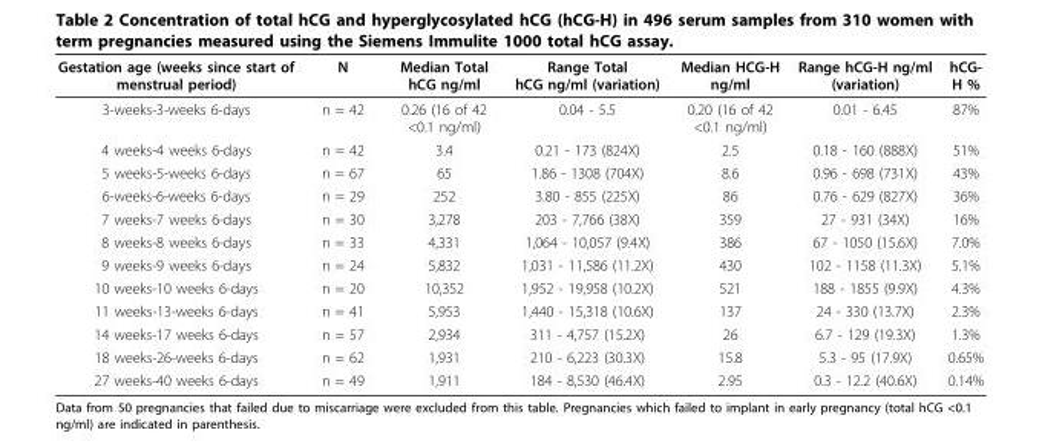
<table><thead><tr><td>Gestation age (weeks since start of menstrual period)</td><td>N</td><td>Median Total hCG ng/ml</td><td>Range Total hCG ng/ml (variation)</td><td>Median HCG-H ng/ml</td><td>Range hCG-H ng/ml (variation)</td><td>hCG- H %</td></tr></thead><tbody><tr><td>3-weeks-3-weeks 6-days</td><td>n = 42</td><td>0.26 (16 of 42 &lt;0.1 ng/ml)</td><td>0.04 - 5.5</td><td>0.20 (16 of 42 &lt;0.1 ng/ml)</td><td>0.01 - 6.45</td><td>87%</td></tr><tr><td>4 weeks-4 weeks 6-days</td><td>n = 42</td><td>3.4</td><td>0.21 - 173 (824X)</td><td>2.5</td><td>0.18 - 160 (888X)</td><td>51%</td></tr><tr><td>5 weeks-5-weeks 6-days</td><td>n = 67</td><td>65</td><td>1.86 - 1308 (704X)</td><td>8.6</td><td>0.96 - 698 (731X)</td><td>43%</td></tr><tr><td>6-weeks-6-weeks 6-days</td><td>n = 29</td><td>252</td><td>3.80 - 855 (225X)</td><td>86</td><td>0.76 - 629 (827X)</td><td>36%</td></tr><tr><td>7 weeks-7 weeks 6-days</td><td>n = 30</td><td>3,278</td><td>203 - 7,766 (38X)</td><td>359</td><td>27 - 931 (34X)</td><td>16%</td></tr><tr><td>8 weeks-8 weeks 6-days</td><td>n = 33</td><td>4,331</td><td>1,064 - 10,057 (9.4X)</td><td>386</td><td>67 - 1050 (15.6X)</td><td>7.0%</td></tr><tr><td>9 weeks-9 weeks 6-days</td><td>n = 24</td><td>5,832</td><td>1,031 - 11,586 (11.2X)</td><td>430</td><td>102 - 1158 (11.3X)</td><td>5.1%</td></tr><tr><td>10 weeks-10 weeks 6-days</td><td>n = 20</td><td>10,352</td><td>1,952 - 19,958 (10.2X)</td><td>521</td><td>188 - 1855 (9.9X)</td><td>4.3%</td></tr><tr><td>11 weeks-13-weeks 6-days</td><td>n = 41</td><td>5,953</td><td>1,440 - 15,318 (10.6X)</td><td>137</td><td>24 - 330 (13.7X)</td><td>2.3%</td></tr><tr><td>14 weeks-17 weeks 6-days</td><td>n = 57</td><td>2,934</td><td>311 - 4,757 (15.2X)</td><td>26</td><td>6.7 - 129 (19.3X)</td><td>1.3%</td></tr><tr><td>18 weeks-26-weeks 6-days</td><td>n = 62</td><td>1,931</td><td>210 - 6,223 (30.3X)</td><td>15.8</td><td>5.3 - 95 (17.9X)</td><td>0.65%</td></tr><tr><td>27 weeks-40 weeks 6-days</td><td>n = 49</td><td>1,911</td><td>184 - 8,530 (46.4X)</td><td>2.95</td><td>0.3 - 12.2 (40.6X)</td><td>0.14%</td></tr></tbody></table>